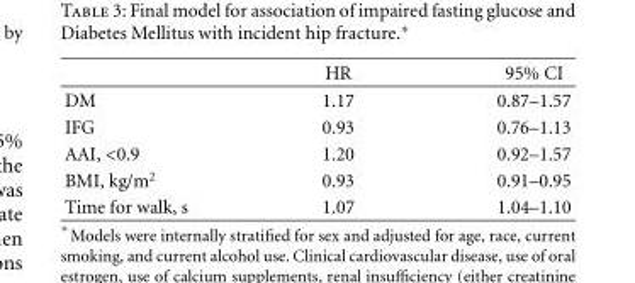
<table><thead><tr><td></td><td>HR</td><td>95% CI</td></tr></thead><tbody><tr><td>DM</td><td>1.17</td><td>0.87–1.57</td></tr><tr><td>IFG</td><td>0.93</td><td>0.76–1.13</td></tr><tr><td>AAI, &lt;0.9</td><td>1.20</td><td>0.92–1.57</td></tr><tr><td>BMI, kg/m<sup>2</sup></td><td>0.93</td><td>0.91–0.95</td></tr><tr><td>Time for walk, s</td><td>1.07</td><td>1.04–1.10</td></tr></tbody></table>